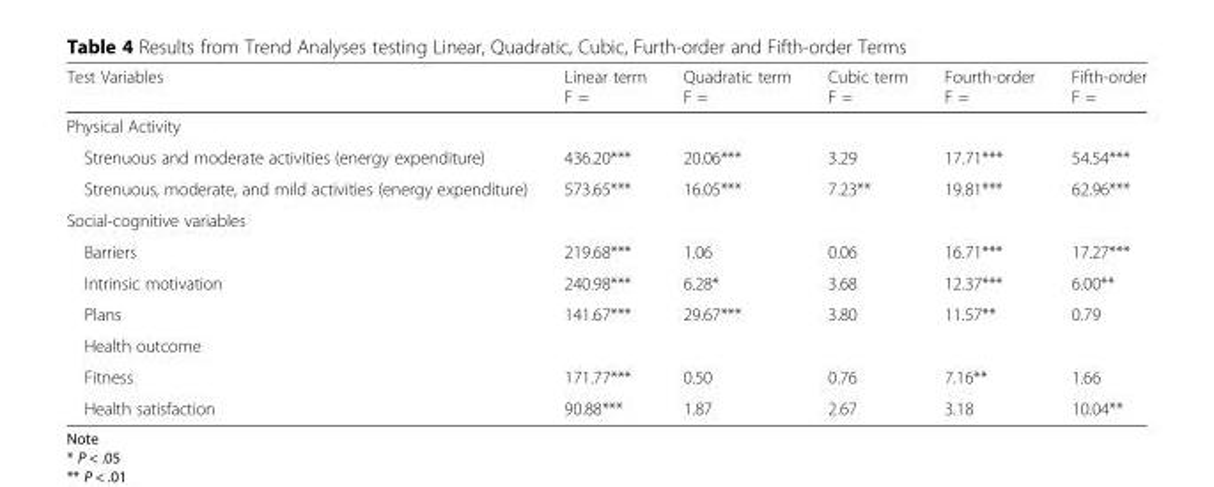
<table><thead><tr><td>Test Variables</td><td>Linear term F =</td><td>Quadratic term F =</td><td>Cubic term F =</td><td>Fourth-order F =</td><td>Fifth-order F =</td></tr></thead><tbody><tr><td colspan="6">Physical Activity</td></tr><tr><td>Strenuous and moderate activities (energy expenditure)</td><td>436.20***</td><td>20.06***</td><td>3.29</td><td>17.71***</td><td>54.54***</td></tr><tr><td>Strenuous, moderate, and mild activities (energy expenditure)</td><td>573.65***</td><td>16.05***</td><td>7.23**</td><td>19.81***</td><td>62.96***</td></tr><tr><td colspan="6">Social-cognitive variables</td></tr><tr><td>Barriers</td><td>219.68***</td><td>1.06</td><td>0.06</td><td>16.71***</td><td>17.27***</td></tr><tr><td>Intrinsic motivation</td><td>240.98***</td><td>6.28*</td><td>3.68</td><td>12.37***</td><td>6.00**</td></tr><tr><td>Plans</td><td>141.67***</td><td>29.67***</td><td>3.80</td><td>11.57**</td><td>0.79</td></tr><tr><td colspan="6">Health outcome</td></tr><tr><td>Fitness</td><td>171.77***</td><td>0.50</td><td>0.76</td><td>7.16**</td><td>1.66</td></tr><tr><td>Health satisfaction</td><td>90.88***</td><td>1.87</td><td>2.67</td><td>3.18</td><td>10.04**</td></tr></tbody></table>